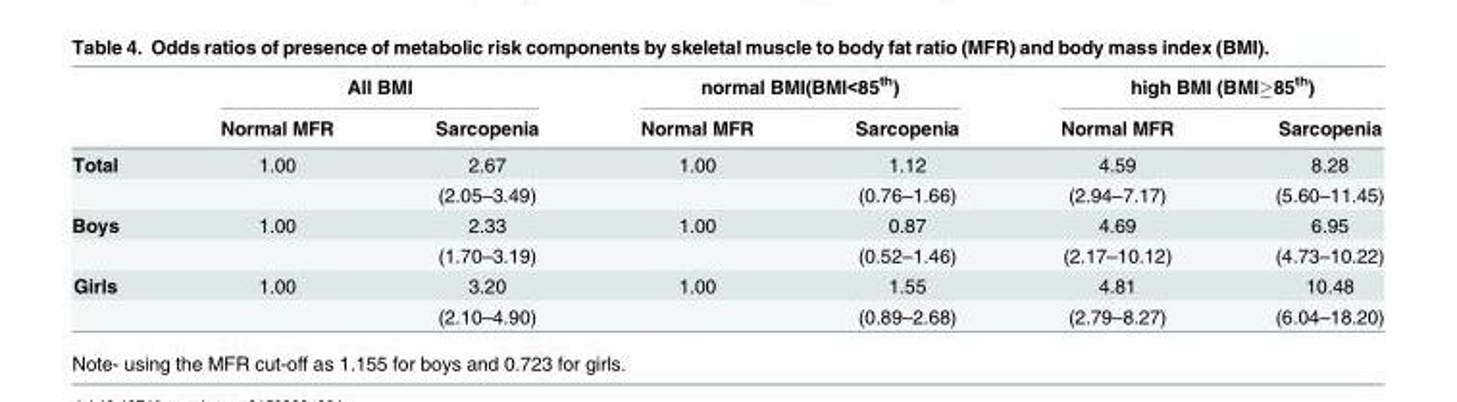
<table><thead><tr><td rowspan="2"></td><td colspan="2">All BMI</td><td colspan="2">normal BMI(BMI&lt;85<sup>th</sup>)</td><td colspan="2">high BMI (BMI≥85<sup>th</sup>)</td></tr><tr><td>Normal MFR</td><td>Sarcopenia</td><td>Normal MFR</td><td>Sarcopenia</td><td>Normal MFR</td><td>Sarcopenia</td></tr></thead><tbody><tr><td rowspan="2">Total</td><td>1.00</td><td>2.67</td><td>1.00</td><td>1.12</td><td>4.59</td><td>8.28</td></tr><tr><td></td><td>(2.05–3.49)</td><td></td><td>(0.76–1.66)</td><td>(2.94–7.17)</td><td>(5.60–11.45)</td></tr><tr><td rowspan="2">Boys</td><td>1.00</td><td>2.33</td><td>1.00</td><td>0.87</td><td>4.69</td><td>6.95</td></tr><tr><td></td><td>(1.70–3.19)</td><td></td><td>(0.52–1.46)</td><td>(2.17–10.12)</td><td>(4.73–10.22)</td></tr><tr><td rowspan="2">Girls</td><td>1.00</td><td>3.20</td><td>1.00</td><td>1.55</td><td>4.81</td><td>10.48</td></tr><tr><td></td><td>(2.10–4.90)</td><td></td><td>(0.89–2.68)</td><td>(2.79–8.27)</td><td>(6.04–18.20)</td></tr></tbody></table>